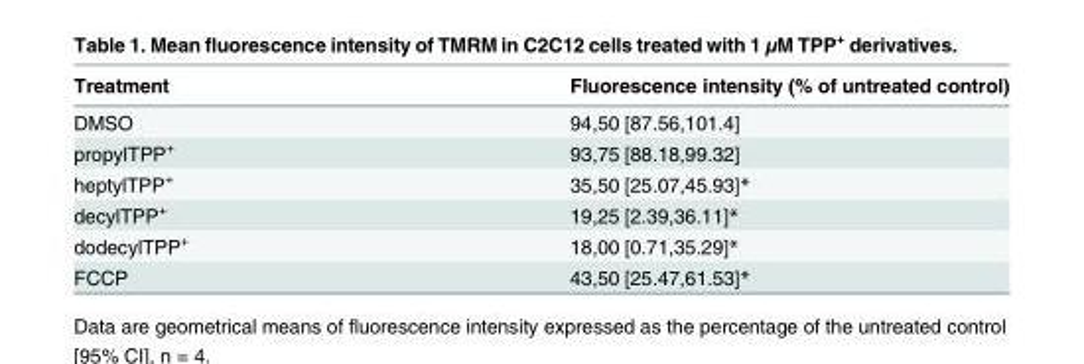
<table><thead><tr><td>Treatment</td><td>Fluorescence intensity (% of untreated control)</td></tr></thead><tbody><tr><td>DMSO</td><td>94,50 [87.56,101.4]</td></tr><tr><td>propylTPP<sup>+</sup></td><td>93,75 [88.18,99.32]</td></tr><tr><td>heptylTPP<sup>+</sup></td><td>35,50 [25.07,45.93]*</td></tr><tr><td>decylTPP<sup>+</sup></td><td>19,25 [2.39,36.11]*</td></tr><tr><td>dodecylTPP<sup>+</sup></td><td>18,00 [0.71,35.29]*</td></tr><tr><td>FCCP</td><td>43,50 [25.47,61.53]*</td></tr></tbody></table>